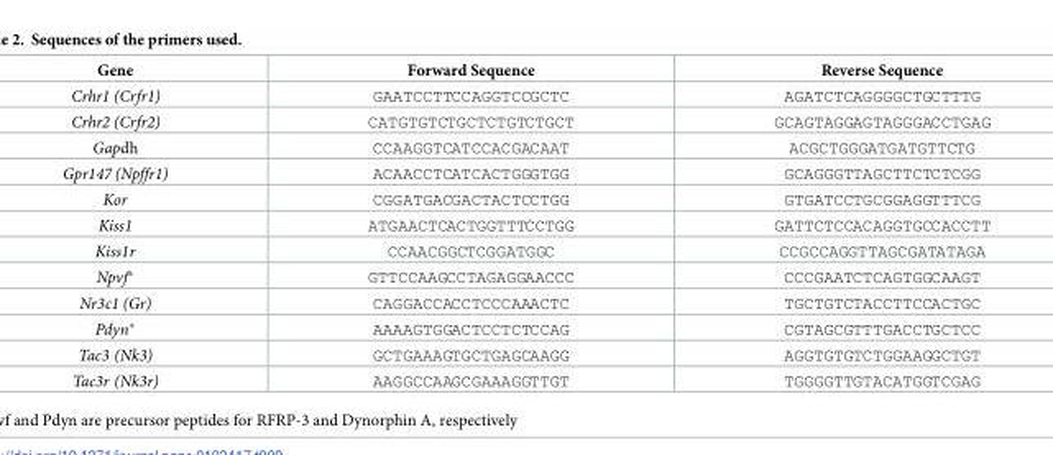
<table><thead><tr><td>Gene</td><td>Forward Sequence</td><td>Reverse Sequence</td></tr></thead><tbody><tr><td>Crhr1 (Crfr1)</td><td>GAATCCTTCCAGGTCCGCTC</td><td>AGATCTCAGGGGCTGCTTTG</td></tr><tr><td>Crhr2 (Crfr2)</td><td>CATGTGTCTGCTCTGTCTGCT</td><td>GCAGTAGGAGTAGGGACCTGAG</td></tr><tr><td>Gapdh</td><td>CCAAGGTCATCCACGACAAT</td><td>ACGCTGGGATGATGTTCTG</td></tr><tr><td>Gpr147 (Npffr1)</td><td>ACAACCTCATCACTGGGTGG</td><td>GCAGGGTTAGCTTCTCTCGG</td></tr><tr><td>Kor</td><td>CGGATGACGACTACTCCTGG</td><td>GTGATCCTGCGGAGGTTTCG</td></tr><tr><td>Kiss1</td><td>ATGAACTCACTGGTTTCCTGG</td><td>GATTCTCCACAGGTGCCACCTT</td></tr><tr><td>Kiss1r</td><td>CCAACGGCTCGGATGGC</td><td>CCGCCAGGTTAGCGATATAGA</td></tr><tr><td>Npvf*</td><td>GTTCCAAGCCTAGAGGAACCC</td><td>CCCGAATCTCAGTGGCAAGT</td></tr><tr><td>Nr3c1 (Gr)</td><td>CAGGACCACCTCCCAAACTC</td><td>TGCTGTCTACCTTCCACTGC</td></tr><tr><td>Pdyn*</td><td>AAAAGTGGACTCCTCTCCAG</td><td>CGTAGCGTTTGACCTGCTCC</td></tr><tr><td>Tac3 (Nk3)</td><td>GCTGAAAGTGCTGAGCAAGG</td><td>AGGTGTGTCTGGAAGGCTGT</td></tr><tr><td>Tac3r (Nk3r)</td><td>AAGGCCAAGCGAAAGGTTGT</td><td>TGGGGTTGTACATGGTCGAG</td></tr></tbody></table>